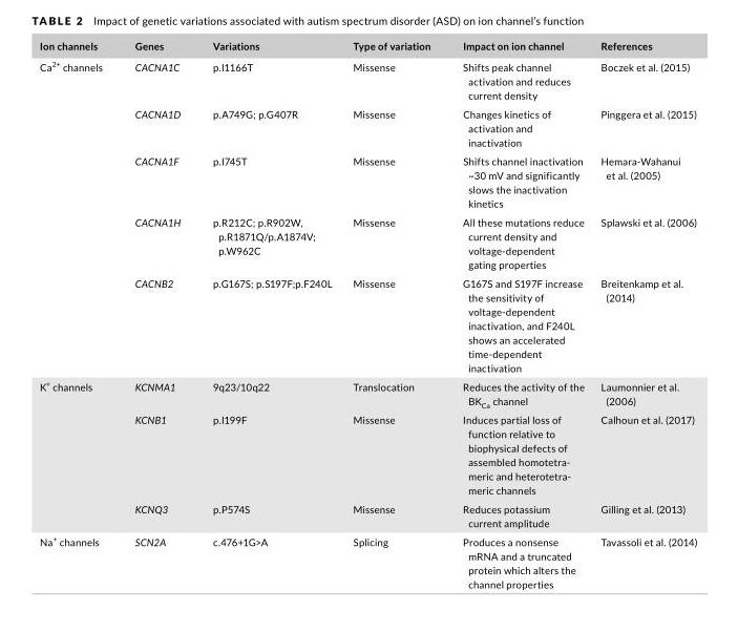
<table><thead><tr><td>Ion channels</td><td>Genes</td><td>Variations</td><td>Type of variation</td><td>Impact on ion channel</td><td>References</td></tr></thead><tbody><tr><td rowspan="5">Ca<sup>2+</sup> channels</td><td>CACNA1C</td><td>p.I1166T</td><td>Missense</td><td>Shifts peak channel activation and reduces current density</td><td>Boczek et al. (2015)</td></tr><tr><td>CACNA1D</td><td>p.A749G; p.G407R</td><td>Missense</td><td>Changes kinetics of activation and inactivation</td><td>Pinggera et al. (2015)</td></tr><tr><td>CACNA1F</td><td>p.I745T</td><td>Missense</td><td>Shifts channel inactivation ~30 mV and significantly slows the inactivation kinetics</td><td>Hemara- Wahanui et al. (2005)</td></tr><tr><td>CACNA1H</td><td>p.R212C; p.R902W, p.R1871Q/p.A1874V; p.W962C</td><td>Missense</td><td>All these mutations reduce current density and voltage- dependent gating properties</td><td>Splawski et al. (2006)</td></tr><tr><td>CACNB2</td><td>p.G167S; p.S197F;p.F240L</td><td>Missense</td><td>G167S and S197F increase the sensitivity of voltage- dependent inactivation, and F240L shows an accelerated time- dependent inactivation</td><td>Breitenkamp et al. (2014)</td></tr><tr><td rowspan="3">K<sup>+</sup> channels</td><td>KCNMA1</td><td>9q23/10q22</td><td>Translocation</td><td>Reduces the activity of the BK<sub>Ca</sub> channel</td><td>Laumonnier et al. (2006)</td></tr><tr><td>KCNB1</td><td>p.I199F</td><td>Missense</td><td>Induces partial loss of function relative to biophysical defects of assembled homotetra- meric and heterotetra- meric channels</td><td>Calhoun et al. (2017)</td></tr><tr><td>KCNQ3</td><td>p.P574S</td><td>Missense</td><td>Reduces potassium current amplitude</td><td>Gilling et al. (2013)</td></tr><tr><td>Na<sup>+</sup> channels</td><td>SCN2A</td><td>c.476+1G&gt;A</td><td>Splicing</td><td>Produces a nonsense mRNA and a truncated protein which alters the channel properties</td><td>Tavassoli et al. (2014)</td></tr></tbody></table>